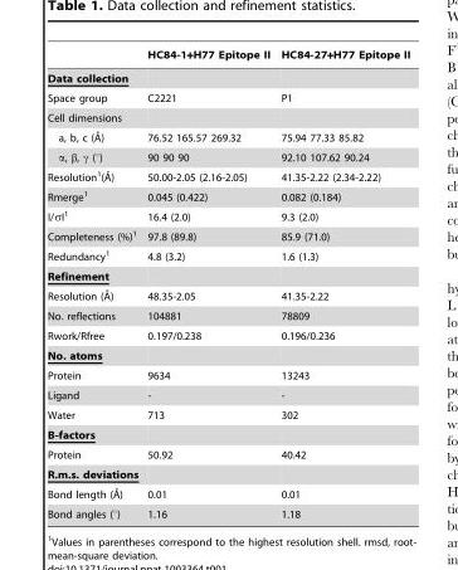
<table><thead><tr><td></td><td>HC84-1+H77 Epitope II</td><td>HC84-27+H77 Epitope II</td></tr></thead><tbody><tr><td colspan="3">Data collection</td></tr><tr><td>Space group</td><td>C2221</td><td>P1</td></tr><tr><td colspan="3">Cell dimensions</td></tr><tr><td>a, b, c (A˚)</td><td>76.52 165.57 269.32</td><td>75.94 77.33 85.82</td></tr><tr><td>α, β, γ (°)</td><td>90 90 90</td><td>92.10 107.62 90.24</td></tr><tr><td>Resolution1(A˚)</td><td>50.00-2.05 (2.16-2.05)</td><td>41.35-2.22 (2.34-2.22)</td></tr><tr><td>Rmerge<sup>1</sup></td><td>0.045 (0.422)</td><td>0.082 (0.184)</td></tr><tr><td>I/σI<sup>1</sup></td><td>16.4 (2.0)</td><td>9.3 (2.0)</td></tr><tr><td>Completeness (%)<sup>1</sup></td><td>97.8 (89.8)</td><td>85.9 (71.0)</td></tr><tr><td>Redundancy<sup>1</sup></td><td>4.8 (3.2)</td><td>1.6 (1.3)</td></tr><tr><td colspan="3">Refinement</td></tr><tr><td>Resolution (A˚)</td><td>48.35-2.05</td><td>41.35-2.22</td></tr><tr><td>No. reflections</td><td>104881</td><td>78809</td></tr><tr><td>Rwork/Rfree</td><td>0.197/0.238</td><td>0.196/0.236</td></tr><tr><td colspan="3">No. atoms</td></tr><tr><td>Protein</td><td>9634</td><td>13243</td></tr><tr><td>Ligand</td><td>-</td><td>-</td></tr><tr><td>Water</td><td>713</td><td>302</td></tr><tr><td colspan="3">B-factors</td></tr><tr><td>Protein</td><td>50.92</td><td>40.42</td></tr><tr><td colspan="3">R.m.s. deviations</td></tr><tr><td>Bond length (A˚)</td><td>0.01</td><td>0.01</td></tr><tr><td>Bond angles (°)</td><td>1.16</td><td>1.18</td></tr></tbody></table>